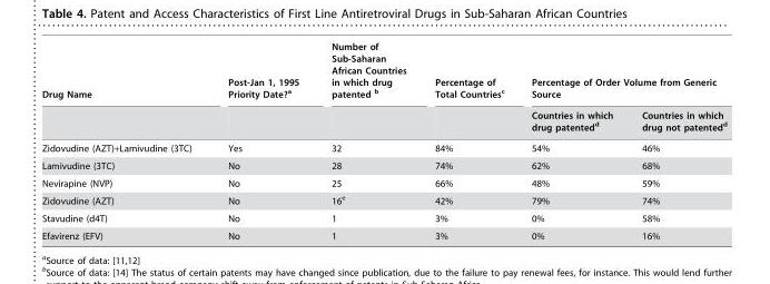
<table><thead><tr><td rowspan="2">Drug Name</td><td rowspan="2">Post-Jan 1, 1995 Priority Date?<sup>a</sup></td><td rowspan="2">Number of Sub-Saharan African Countries in which drug patented b</td><td rowspan="2">Percentage of Total Countries<sup>c</sup></td><td colspan="2">Percentage of Order Volume from Generic Source</td></tr><tr><td>Countries in which drug patented<sup>d</sup></td><td>Countries in which drug not patented<sup>d</sup></td></tr></thead><tbody><tr><td>Zidovudine (AZT)+Lamivudine (3TC)</td><td>Yes</td><td>32</td><td>84%</td><td>54%</td><td>46%</td></tr><tr><td>Lamivudine (3TC)</td><td>No</td><td>28</td><td>74%</td><td>62%</td><td>68%</td></tr><tr><td>Nevirapine (NVP)</td><td>No</td><td>25</td><td>66%</td><td>48%</td><td>59%</td></tr><tr><td>Zidovudine (AZT)</td><td>No</td><td>16<sup>e</sup></td><td>42%</td><td>79%</td><td>74%</td></tr><tr><td>Stavudine (d4T)</td><td>No</td><td>1</td><td>3%</td><td>0%</td><td>58%</td></tr><tr><td>Efavirenz (EFV)</td><td>No</td><td>1</td><td>3%</td><td>0%</td><td>16%</td></tr></tbody></table>